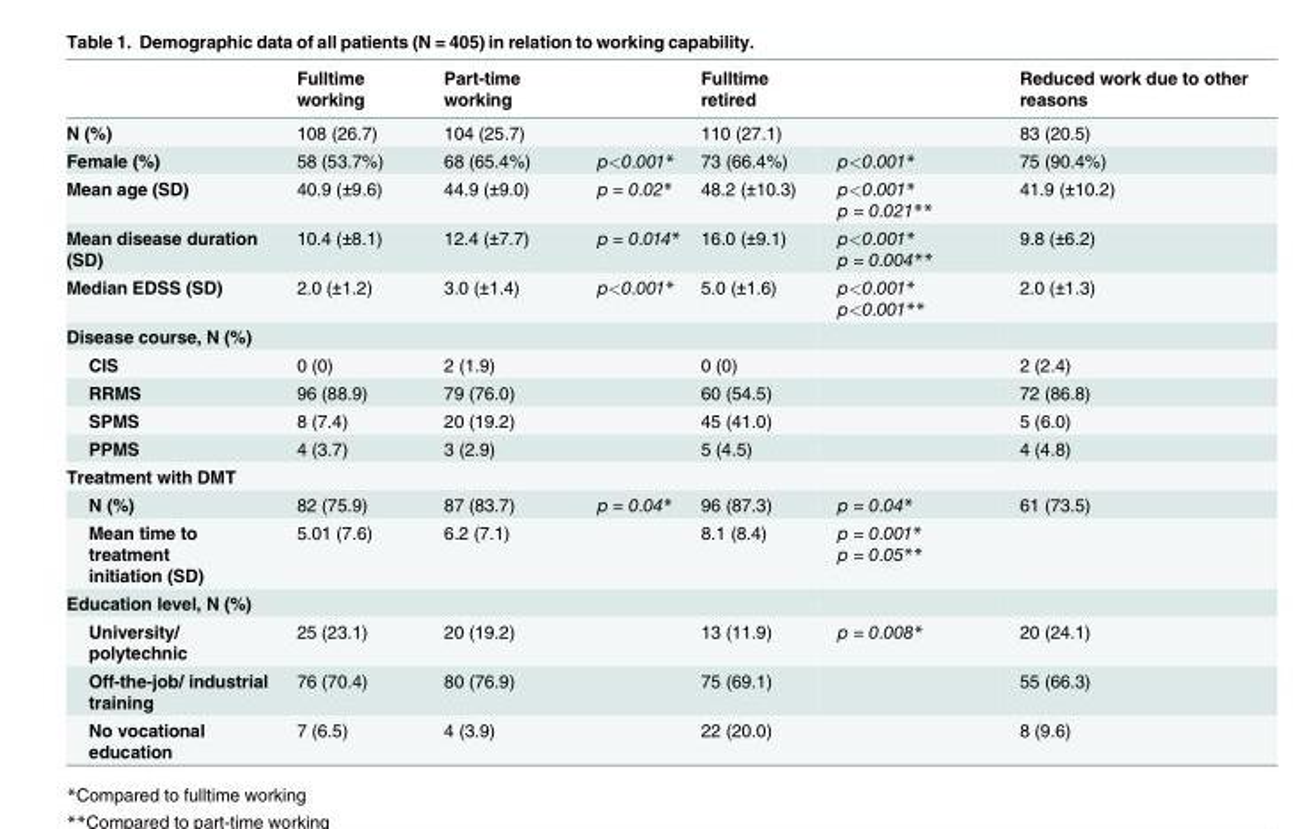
<table><thead><tr><td></td><td>Fulltime working</td><td>Part-time working</td><td></td><td>Fulltime retired</td><td></td><td>Reduced work due to other reasons</td></tr></thead><tbody><tr><td>N (%)</td><td>108 (26.7)</td><td>104 (25.7)</td><td></td><td>110 (27.1)</td><td></td><td>83 (20.5)</td></tr><tr><td>Female (%)</td><td>58 (53.7%)</td><td>68 (65.4%)</td><td>p&lt;0.001*</td><td>73 (66.4%)</td><td>p&lt;0.001*</td><td>75 (90.4%)</td></tr><tr><td>Mean age (SD)</td><td>40.9 (±9.6)</td><td>44.9 (±9.0)</td><td>p = 0.02*</td><td>48.2 (±10.3)</td><td>p&lt;0.001* p = 0.021**</td><td>41.9 (±10.2)</td></tr><tr><td>Mean disease duration (SD)</td><td>10.4 (±8.1)</td><td>12.4 (±7.7)</td><td>p = 0.014*</td><td>16.0 (±9.1)</td><td>p&lt;0.001* p = 0.004**</td><td>9.8 (±6.2)</td></tr><tr><td>Median EDSS (SD)</td><td>2.0 (±1.2)</td><td>3.0 (±1.4)</td><td>p&lt;0.001*</td><td>5.0 (±1.6)</td><td>p&lt;0.001* p&lt;0.001**</td><td>2.0 (±1.3)</td></tr><tr><td colspan="7">Disease course, N (%)</td></tr><tr><td>CIS</td><td>0 (0)</td><td>2 (1.9)</td><td></td><td>0 (0)</td><td></td><td>2 (2.4)</td></tr><tr><td>RRMS</td><td>96 (88.9)</td><td>79 (76.0)</td><td></td><td>60 (54.5)</td><td></td><td>72 (86.8)</td></tr><tr><td>SPMS</td><td>8 (7.4)</td><td>20 (19.2)</td><td></td><td>45 (41.0)</td><td></td><td>5 (6.0)</td></tr><tr><td>PPMS</td><td>4 (3.7)</td><td>3 (2.9)</td><td></td><td>5 (4.5)</td><td></td><td>4 (4.8)</td></tr><tr><td colspan="7">Treatment with DMT</td></tr><tr><td>N (%)</td><td>82 (75.9)</td><td>87 (83.7)</td><td>p = 0.04*</td><td>96 (87.3)</td><td>p = 0.04*</td><td>61 (73.5)</td></tr><tr><td>Mean time to treatment initiation (SD)</td><td>5.01 (7.6)</td><td>6.2 (7.1)</td><td></td><td>8.1 (8.4)</td><td>p = 0.001* p = 0.05**</td><td></td></tr><tr><td colspan="7">Education level, N (%)</td></tr><tr><td>University/ polytechnic</td><td>25 (23.1)</td><td>20 (19.2)</td><td></td><td>13 (11.9)</td><td>p = 0.008*</td><td>20 (24.1)</td></tr><tr><td>Off-the-job/ industrial training</td><td>76 (70.4)</td><td>80 (76.9)</td><td></td><td>75 (69.1)</td><td></td><td>55 (66.3)</td></tr><tr><td>No vocational education</td><td>7 (6.5)</td><td>4 (3.9)</td><td></td><td>22 (20.0)</td><td></td><td>8 (9.6)</td></tr></tbody></table>